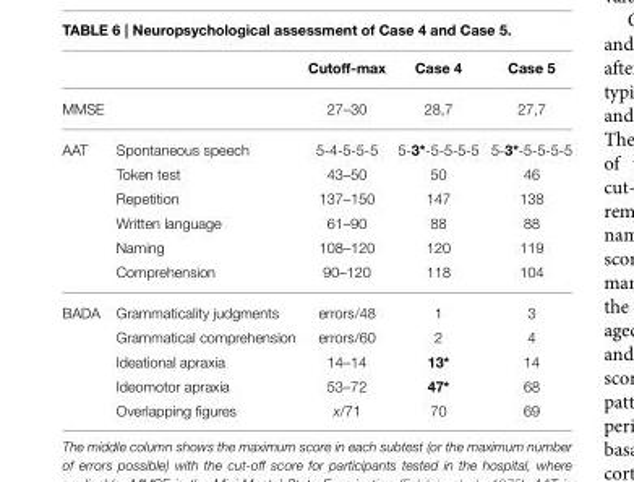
<table><thead><tr><td></td><td></td><td>Cutoff-max</td><td>Case 4</td><td>Case 5</td></tr></thead><tbody><tr><td>MMSE</td><td></td><td>27–30</td><td>28,7</td><td>27,7</td></tr><tr><td rowspan="6">AAT</td><td>Spontaneous speech</td><td>5-4-5-5-5</td><td>5-3*-5-5-5-5</td><td>5-3*-5-5-5-5</td></tr><tr><td>Token test</td><td>43–50</td><td>50</td><td>46</td></tr><tr><td>Repetition</td><td>137–150</td><td>147</td><td>138</td></tr><tr><td>Written language</td><td>61–90</td><td>88</td><td>88</td></tr><tr><td>Naming</td><td>108–120</td><td>120</td><td>119</td></tr><tr><td>Comprehension</td><td>90–120</td><td>118</td><td>104</td></tr><tr><td rowspan="5">BADA</td><td>Grammaticality judgments</td><td>errors/48</td><td>1</td><td>3</td></tr><tr><td>Grammatical comprehension</td><td>errors/60</td><td>2</td><td>4</td></tr><tr><td>Ideational apraxia</td><td>14–14</td><td>13*</td><td>14</td></tr><tr><td>Ideomotor apraxia</td><td>53–72</td><td>47*</td><td>68</td></tr><tr><td>Overlapping figures</td><td>x/71</td><td>70</td><td>69</td></tr></tbody></table>